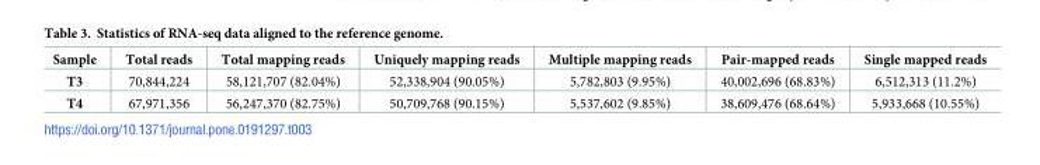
<table><thead><tr><td>Sample</td><td>Total reads</td><td>Total mapping reads</td><td>Uniquely mapping reads</td><td>Multiple mapping reads</td><td>Pair-mapped reads</td><td>Single mapped reads</td></tr></thead><tbody><tr><td>T3</td><td>70,844,224</td><td>58,121,707 (82.04%)</td><td>52,338,904 (90.05%)</td><td>5,782,803 (9.95%)</td><td>40,002,696 (68.83%)</td><td>6,512,313 (11.2%)</td></tr><tr><td>T4</td><td>67,971,356</td><td>56,247,370 (82.75%)</td><td>50,709,768 (90.15%)</td><td>5,537,602 (9.85%)</td><td>38,609,476 (68.64%)</td><td>5,933,668 (10.55%)</td></tr></tbody></table>